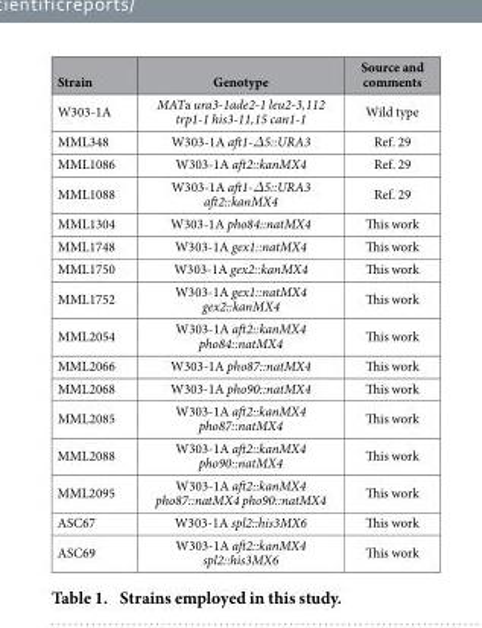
<table><thead><tr><td>Strain</td><td>Genotype</td><td>Source and comments</td></tr></thead><tbody><tr><td>W303-1A</td><td>MATa ura3-1ade2-1 leu2-3,112 trp1-1 his3-11,15 can1-1</td><td>Wild type</td></tr><tr><td>MML348</td><td>W303-1A aft1-Δ5::URA3</td><td>Ref. 29</td></tr><tr><td>MML1086</td><td>W303-1A aft2::kanMX4</td><td>Ref. 29</td></tr><tr><td>MML1088</td><td>W303-1A aft1-Δ5::URA3 aft2::kanMX4</td><td>Ref. 29</td></tr><tr><td>MML1304</td><td>W303-1A pho84::natMX4</td><td>This work</td></tr><tr><td>MML1748</td><td>W303-1A gex1::natMX4</td><td>This work</td></tr><tr><td>MML1750</td><td>W303-1A gex2::kanMX4</td><td>This work</td></tr><tr><td>MML1752</td><td>W303-1A gex1::natMX4 gex2::kanMX4</td><td>This work</td></tr><tr><td>MML2054</td><td>W303-1A aft2::kanMX4 pho84::natMX4</td><td>This work</td></tr><tr><td>MML2066</td><td>W303-1A pho87::natMX4</td><td>This work</td></tr><tr><td>MML2068</td><td>W303-1A pho90::natMX4</td><td>This work</td></tr><tr><td>MML2085</td><td>W303-1A aft2::kanMX4 pho87::natMX4</td><td>This work</td></tr><tr><td>MML2088</td><td>W303-1A aft2::kanMX4 pho90::natMX4</td><td>This work</td></tr><tr><td>MML2095</td><td>W303-1A aft2::kanMX4 pho87::natMX4 pho90::natMX4</td><td>This work</td></tr><tr><td>ASC67</td><td>W303-1A spl2::his3MX6</td><td>This work</td></tr><tr><td>ASC69</td><td>W303-1A aft2::kanMX4 spl2::his3MX6</td><td>This work</td></tr></tbody></table>